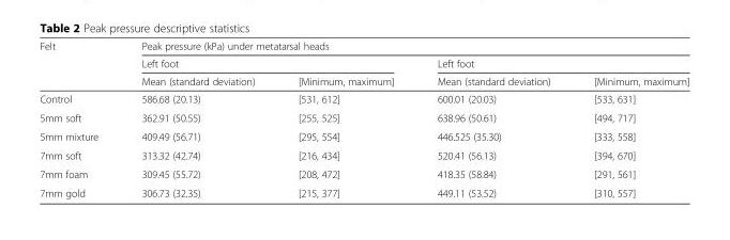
<table><thead><tr><td rowspan="3">Felt</td><td colspan="4">Peak pressure (kPa) under metatarsal heads</td></tr><tr><td colspan="2">Left foot</td><td colspan="2">Left foot</td></tr><tr><td>Mean (standard deviation)</td><td>[Minimum, maximum]</td><td>Mean (standard deviation)</td><td>[Minimum, maximum]</td></tr></thead><tbody><tr><td>Control</td><td>586.68 (20.13)</td><td>[531, 612]</td><td>600.01 (20.03)</td><td>[533, 631]</td></tr><tr><td>5mm soft</td><td>362.91 (50.55)</td><td>[255, 525]</td><td>638.96 (50.61)</td><td>[494, 717]</td></tr><tr><td>5mm mixture</td><td>409.49 (56.71)</td><td>[295, 554]</td><td>446.525 (35.30)</td><td>[333, 558]</td></tr><tr><td>7mm soft</td><td>313.32 (42.74)</td><td>[216, 434]</td><td>520.41 (56.13)</td><td>[394, 670]</td></tr><tr><td>7mm foam</td><td>309.45 (55.72)</td><td>[208, 472]</td><td>418.35 (58.84)</td><td>[291, 561]</td></tr><tr><td>7mm gold</td><td>306.73 (32.35)</td><td>[215, 377]</td><td>449.11 (53.52)</td><td>[310, 557]</td></tr></tbody></table>